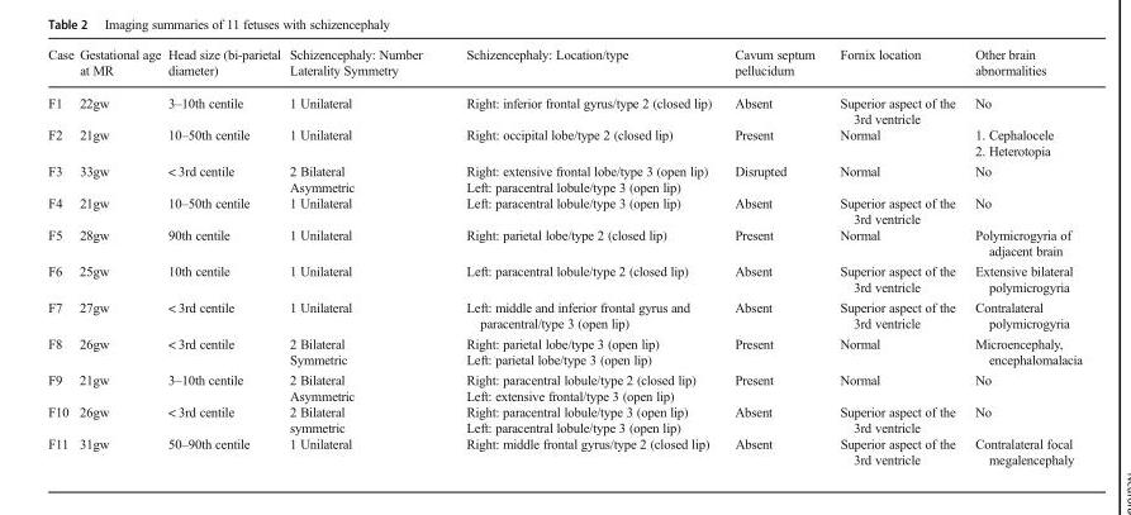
<table><thead><tr><td>Case</td><td>Gestational age at MR</td><td>Head size (bi-parietal diameter)</td><td>Schizencephaly: Number Laterality Symmetry</td><td>Schizencephaly: Location/type</td><td>Cavum septum pellucidum</td><td>Fornix location</td><td>Other brain abnormalities</td></tr></thead><tbody><tr><td>F1</td><td>22gw</td><td>3–10th centile</td><td>1 Unilateral</td><td>Right: inferior frontal gyrus/type 2 (closed lip)</td><td>Absent</td><td>Superior aspect of the 3rd ventricle</td><td>No</td></tr><tr><td>F2</td><td>21gw</td><td>10–50th centile</td><td>1 Unilateral</td><td>Right: occipital lobe/type 2 (closed lip)</td><td>Present</td><td>Normal</td><td>1. Cephalocele 2. Heterotopia</td></tr><tr><td>F3</td><td>33gw</td><td>&lt; 3rd centile</td><td>2 Bilateral Asymmetric</td><td>Right: extensive frontal lobe/type 3 (open lip) Left: paracentral lobule/type 3 (open lip)</td><td>Disrupted</td><td>Normal</td><td>No</td></tr><tr><td>F4</td><td>21gw</td><td>10–50th centile</td><td>1 Unilateral</td><td>Left: paracentral lobule/type 3 (open lip)</td><td>Absent</td><td>Superior aspect of the 3rd ventricle</td><td>No</td></tr><tr><td>F5</td><td>28gw</td><td>90th centile</td><td>1 Unilateral</td><td>Right: parietal lobe/type 2 (closed lip)</td><td>Present</td><td>Normal</td><td>Polymicrogyria of adjacent brain</td></tr><tr><td>F6</td><td>25gw</td><td>10th centile</td><td>1 Unilateral</td><td>Left: paracentral lobule/type 2 (closed lip)</td><td>Absent</td><td>Superior aspect of the 3rd ventricle</td><td>Extensive bilateral polymicrogyria</td></tr><tr><td>F7</td><td>27gw</td><td>&lt; 3rd centile</td><td>1 Unilateral</td><td>Left: middle and inferior frontal gyrus and paracentral/type 3 (open lip)</td><td>Absent</td><td>Superior aspect of the 3rd ventricle</td><td>Contralateral polymicrogyria</td></tr><tr><td>F8</td><td>26gw</td><td>&lt; 3rd centile</td><td>2 Bilateral Symmetric</td><td>Right: parietal lobe/type 3 (open lip) Left: parietal lobe/type 3 (open lip)</td><td>Present</td><td>Normal</td><td>Microencephaly, encephalomalacia</td></tr><tr><td>F9</td><td>21gw</td><td>3–10th centile</td><td>2 Bilateral Asymmetric</td><td>Right: paracentral lobule/type 2 (closed lip) Left: extensive frontal/type 3 (open lip)</td><td>Present</td><td>Normal</td><td>No</td></tr><tr><td>F10</td><td>26gw</td><td>&lt; 3rd centile</td><td>2 Bilateral symmetric</td><td>Right: paracentral lobule/type 3 (open lip) Left: paracentral lobule/type 3 (open lip)</td><td>Absent</td><td>Superior aspect of the 3rd ventricle</td><td>No</td></tr><tr><td>F11</td><td>31gw</td><td>50–90th centile</td><td>1 Unilateral</td><td>Right: middle frontal gyrus/type 2 (closed lip)</td><td>Absent</td><td>Superior aspect of the 3rd ventricle</td><td>Contralateral focal megalencephaly</td></tr></tbody></table>